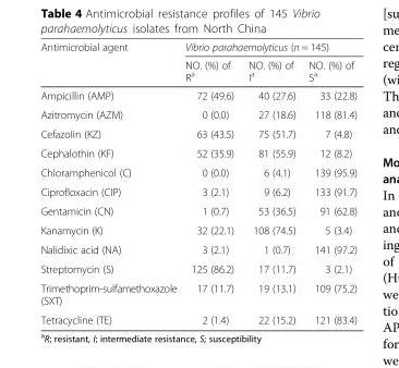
<table><thead><tr><td rowspan="2">Antimicrobial agent</td><td colspan="3">Vibrio parahaemolyticus (n = 145)</td></tr><tr><td>NO. (%) of R<sup>a</sup></td><td>NO. (%) of I<sup>a</sup></td><td>NO. (%) of S<sup>a</sup></td></tr></thead><tbody><tr><td>Ampicillin (AMP)</td><td>72 (49.6)</td><td>40 (27.6)</td><td>33 (22.8)</td></tr><tr><td>Azitromycin (AZM)</td><td>0 (0.0)</td><td>27 (18.6)</td><td>118 (81.4)</td></tr><tr><td>Cefazolin (KZ)</td><td>63 (43.5)</td><td>75 (51.7)</td><td>7 (4.8)</td></tr><tr><td>Cephalothin (KF)</td><td>52 (35.9)</td><td>81 (55.9)</td><td>12 (8.2)</td></tr><tr><td>Chloramphenicol (C)</td><td>0 (0.0)</td><td>6 (4.1)</td><td>139 (95.9)</td></tr><tr><td>Ciprofloxacin (CIP)</td><td>3 (2.1)</td><td>9 (6.2)</td><td>133 (91.7)</td></tr><tr><td>Gentamicin (CN)</td><td>1 (0.7)</td><td>53 (36.5)</td><td>91 (62.8)</td></tr><tr><td>Kanamycin (K)</td><td>32 (22.1)</td><td>108 (74.5)</td><td>5 (3.4)</td></tr><tr><td>Nalidixic acid (NA)</td><td>3 (2.1)</td><td>1 (0.7)</td><td>141 (97.2)</td></tr><tr><td>Streptomycin (S)</td><td>125 (86.2)</td><td>17 (11.7)</td><td>3 (2.1)</td></tr><tr><td>Trimethoprim-sulfamethoxazole (SXT)</td><td>17 (11.7)</td><td>19 (13.1)</td><td>109 (75.2)</td></tr><tr><td>Tetracycline (TE)</td><td>2 (1.4)</td><td>22 (15.2)</td><td>121 (83.4)</td></tr></tbody></table>